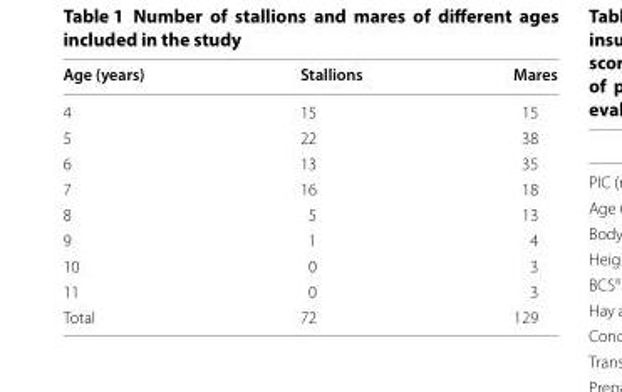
<table><thead><tr><td>Age (years)</td><td>Stallions</td><td>Mares</td></tr></thead><tbody><tr><td>4</td><td>15</td><td>15</td></tr><tr><td>5</td><td>22</td><td>38</td></tr><tr><td>6</td><td>13</td><td>35</td></tr><tr><td>7</td><td>16</td><td>18</td></tr><tr><td>8</td><td>5</td><td>13</td></tr><tr><td>9</td><td>1</td><td>4</td></tr><tr><td>10</td><td>0</td><td>3</td></tr><tr><td>11</td><td>0</td><td>3</td></tr><tr><td>Total</td><td>72</td><td>129</td></tr></tbody></table>